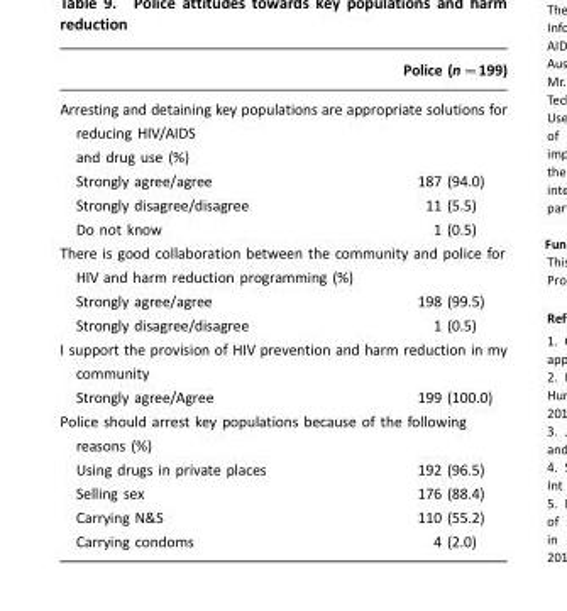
<table><thead><tr><td></td><td>Police (n=199)</td></tr></thead><tbody><tr><td colspan="2">Arresting and detaining key populations are appropriate solutions for reducing HIV/AIDS and drug use (%)</td></tr><tr><td>Strongly agree/agree</td><td>187 (94.0)</td></tr><tr><td>Strongly disagree/disagree</td><td>11 (5.5)</td></tr><tr><td>Do not know</td><td>1 (0.5)</td></tr><tr><td colspan="2">There is good collaboration between the community and police for HIV and harm reduction programming (%)</td></tr><tr><td>Strongly agree/agree</td><td>198 (99.5)</td></tr><tr><td>Strongly disagree/disagree</td><td>1 (0.5)</td></tr><tr><td colspan="2">I support the provision of HIV prevention and harm reduction in my community</td></tr><tr><td>Strongly agree/Agree</td><td>199 (100.0)</td></tr><tr><td colspan="2">Police should arrest key populations because of the following reasons (%)</td></tr><tr><td>Using drugs in private places</td><td>192 (96.5)</td></tr><tr><td>Selling sex</td><td>176 (88.4)</td></tr><tr><td>Carrying N&amp;S</td><td>110 (55.2)</td></tr><tr><td>Carrying condoms</td><td>4 (2.0)</td></tr></tbody></table>